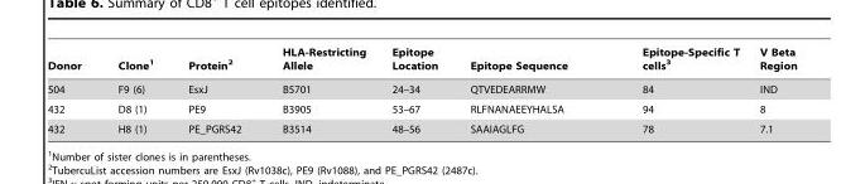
<table><thead><tr><td>Donor</td><td>Clone<sup>1</sup></td><td>Protein<sup>2</sup></td><td>HLA-Restricting Allele</td><td>Epitope Location</td><td>Epitope Sequence</td><td>Epitope-Specific T cells<sup>3</sup></td><td>V Beta Region</td></tr></thead><tbody><tr><td>504</td><td>F9 (6)</td><td>EsxJ</td><td>B5701</td><td>24–34</td><td>QTVEDEARRMW</td><td>84</td><td>IND</td></tr><tr><td>432</td><td>D8 (1)</td><td>PE9</td><td>B3905</td><td>53–67</td><td>RLFNANAEEYHALSA</td><td>94</td><td>8</td></tr><tr><td>432</td><td>H8 (1)</td><td>PE_PGRS42</td><td>B3514</td><td>48–56</td><td>SAAIAGLFG</td><td>78</td><td>7.1</td></tr></tbody></table>